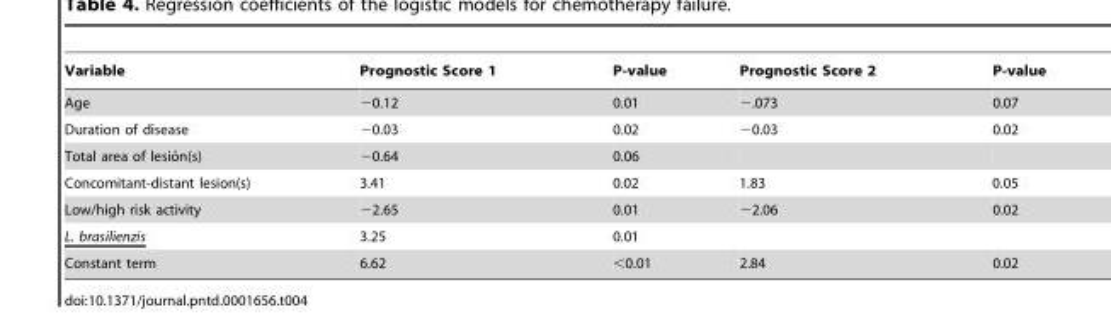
<table><thead><tr><td>Variable</td><td>Prognostic Score 1</td><td>P-value</td><td>Prognostic Score 2</td><td>P-value</td></tr></thead><tbody><tr><td>Age</td><td>−0.12</td><td>0.01</td><td>−.073</td><td>0.07</td></tr><tr><td>Duration of disease</td><td>−0.03</td><td>0.02</td><td>−0.03</td><td>0.02</td></tr><tr><td>Total area of lesio´n(s)</td><td>−0.64</td><td>0.06</td><td></td><td></td></tr><tr><td>Concomitant-distant lesion(s)</td><td>3.41</td><td>0.02</td><td>1.83</td><td>0.05</td></tr><tr><td>Low/high risk activity</td><td>−2.65</td><td>0.01</td><td>−2.06</td><td>0.02</td></tr><tr><td>L. brasilienzis</td><td>3.25</td><td>0.01</td><td></td><td></td></tr><tr><td>Constant term</td><td>6.62</td><td>&lt;0.01</td><td>2.84</td><td>0.02</td></tr></tbody></table>